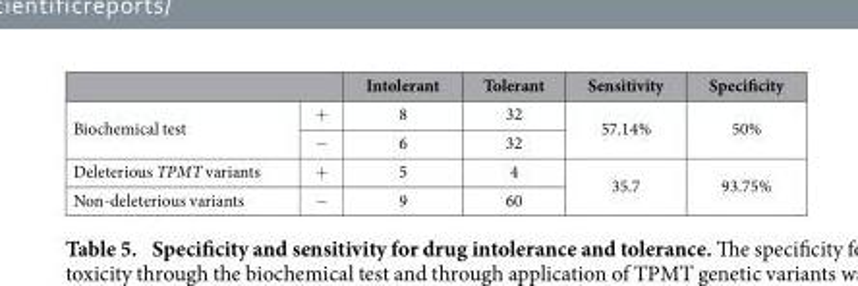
<table><thead><tr><td></td><td></td><td>Intolerant</td><td>Tolerant</td><td>Sensitivity</td><td>Specificity</td></tr></thead><tbody><tr><td rowspan="2">Biochemical test</td><td>+</td><td>8</td><td>32</td><td rowspan="2">57.14%</td><td rowspan="2">50%</td></tr><tr><td>−</td><td>6</td><td>32</td></tr><tr><td>Deleterious TPMT variants</td><td>+</td><td>5</td><td>4</td><td rowspan="2">35.7</td><td rowspan="2">93.75%</td></tr><tr><td>Non-deleterious variants</td><td>−</td><td>9</td><td>60</td></tr></tbody></table>